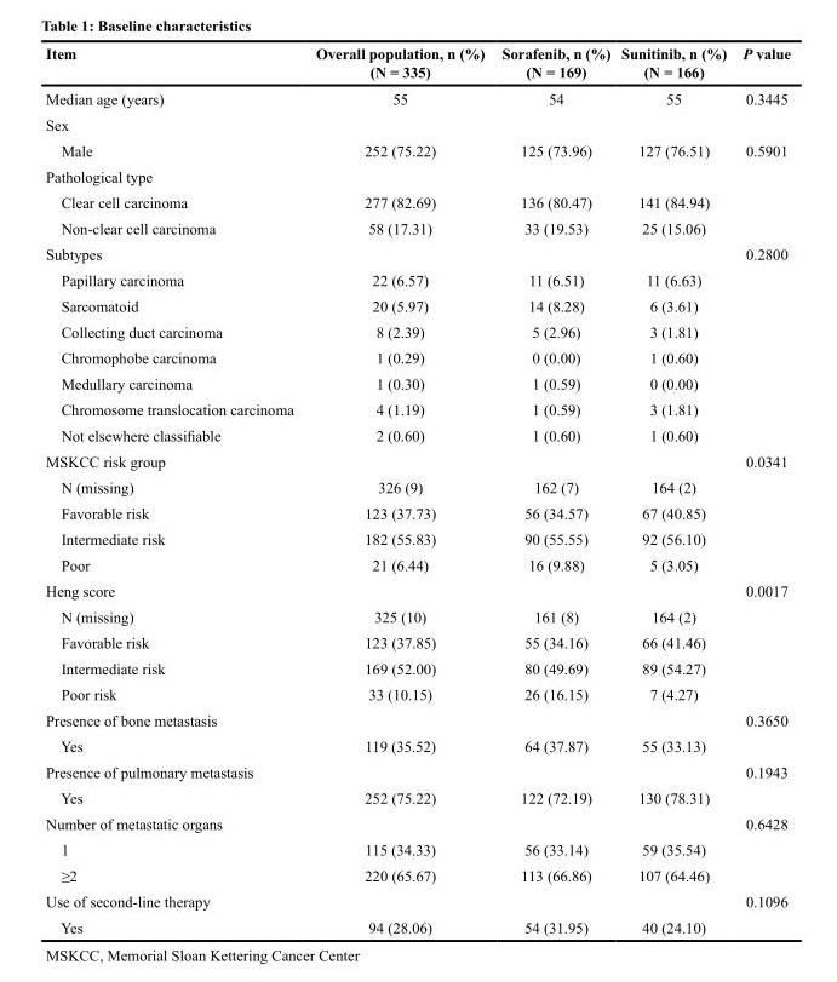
<table><thead><tr><td>Item</td><td>Overall population, n (%) (N = 335)</td><td>Sorafenib, n (%) (N = 169)</td><td>Sunitinib, n (%) (N = 166)</td><td>P value</td></tr></thead><tbody><tr><td>Median age (years)</td><td>55</td><td>54</td><td>55</td><td>0.3445</td></tr><tr><td colspan="5">Sex</td></tr><tr><td>Male</td><td>252 (75.22)</td><td>125 (73.96)</td><td>127 (76.51)</td><td>0.5901</td></tr><tr><td colspan="5">Pathological type</td></tr><tr><td>Clear cell carcinoma</td><td>277 (82.69)</td><td>136 (80.47)</td><td>141 (84.94)</td><td></td></tr><tr><td>Non-clear cell carcinoma</td><td>58 (17.31)</td><td>33 (19.53)</td><td>25 (15.06)</td><td></td></tr><tr><td>Subtypes</td><td></td><td></td><td></td><td>0.2800</td></tr><tr><td>Papillary carcinoma</td><td>22 (6.57)</td><td>11 (6.51)</td><td>11 (6.63)</td><td></td></tr><tr><td>Sarcomatoid</td><td>20 (5.97)</td><td>14 (8.28)</td><td>6 (3.61)</td><td></td></tr><tr><td>Collecting duct carcinoma</td><td>8 (2.39)</td><td>5 (2.96)</td><td>3 (1.81)</td><td></td></tr><tr><td>Chromophobe carcinoma</td><td>1 (0.29)</td><td>0 (0.00)</td><td>1 (0.60)</td><td></td></tr><tr><td>Medullary carcinoma</td><td>1 (0.30)</td><td>1 (0.59)</td><td>0 (0.00)</td><td></td></tr><tr><td>Chromosome translocation carcinoma</td><td>4 (1.19)</td><td>1 (0.59)</td><td>3 (1.81)</td><td></td></tr><tr><td>Not elsewhere classifiable</td><td>2 (0.60)</td><td>1 (0.60)</td><td>1 (0.60)</td><td></td></tr><tr><td>MSKCC risk group</td><td></td><td></td><td></td><td>0.0341</td></tr><tr><td>N (missing)</td><td>326 (9)</td><td>162 (7)</td><td>164 (2)</td><td></td></tr><tr><td>Favorable risk</td><td>123 (37.73)</td><td>56 (34.57)</td><td>67 (40.85)</td><td></td></tr><tr><td>Intermediate risk</td><td>182 (55.83)</td><td>90 (55.55)</td><td>92 (56.10)</td><td></td></tr><tr><td>Poor</td><td>21 (6.44)</td><td>16 (9.88)</td><td>5 (3.05)</td><td></td></tr><tr><td>Heng score</td><td></td><td></td><td></td><td>0.0017</td></tr><tr><td>N (missing)</td><td>325 (10)</td><td>161 (8)</td><td>164 (2)</td><td></td></tr><tr><td>Favorable risk</td><td>123 (37.85)</td><td>55 (34.16)</td><td>66 (41.46)</td><td></td></tr><tr><td>Intermediate risk</td><td>169 (52.00)</td><td>80 (49.69)</td><td>89 (54.27)</td><td></td></tr><tr><td>Poor risk</td><td>33 (10.15)</td><td>26 (16.15)</td><td>7 (4.27)</td><td></td></tr><tr><td>Presence of bone metastasis</td><td></td><td></td><td></td><td>0.3650</td></tr><tr><td>Yes</td><td>119 (35.52)</td><td>64 (37.87)</td><td>55 (33.13)</td><td></td></tr><tr><td>Presence of pulmonary metastasis</td><td></td><td></td><td></td><td>0.1943</td></tr><tr><td>Yes</td><td>252 (75.22)</td><td>122 (72.19)</td><td>130 (78.31)</td><td></td></tr><tr><td>Number of metastatic organs</td><td></td><td></td><td></td><td>0.6428</td></tr><tr><td>1</td><td>115 (34.33)</td><td>56 (33.14)</td><td>59 (35.54)</td><td></td></tr><tr><td>≥2</td><td>220 (65.67)</td><td>113 (66.86)</td><td>107 (64.46)</td><td></td></tr><tr><td>Use of second-line therapy</td><td></td><td></td><td></td><td>0.1096</td></tr><tr><td>Yes</td><td>94 (28.06)</td><td>54 (31.95)</td><td>40 (24.10)</td><td></td></tr></tbody></table>